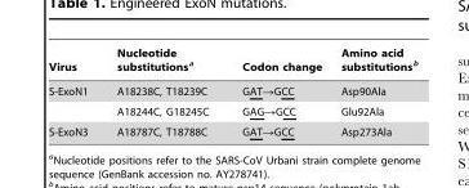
<table><thead><tr><td>Virus</td><td>Nucleotide substitutions<sup>a</sup></td><td>Codon change</td><td>Amino acid substitutions<sup>b</sup></td></tr></thead><tbody><tr><td rowspan="2">S-ExoN1</td><td>A18238C, T18239C</td><td>GAT→GCC</td><td>Asp90Ala</td></tr><tr><td>A18244C, G18245C</td><td>GAG→GCC</td><td>Glu92Ala</td></tr><tr><td>S-ExoN3</td><td>A18787C, T18788C</td><td>GAT→GCC</td><td>Asp273Ala</td></tr></tbody></table>